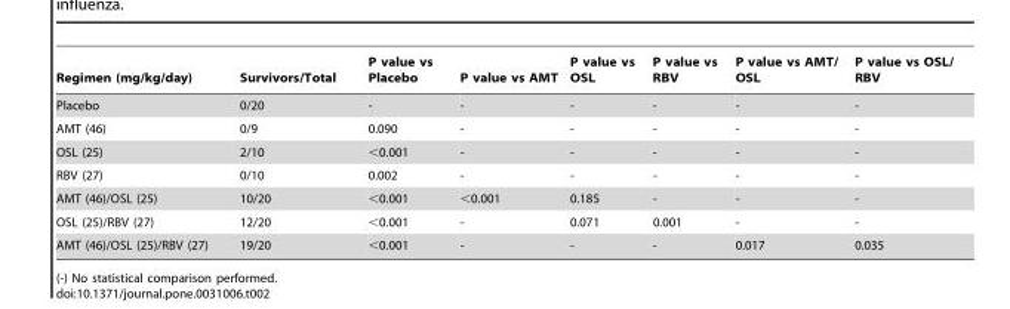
<table><thead><tr><td>Regimen (mg/kg/day)</td><td>Survivors/Total</td><td>P value vs Placebo</td><td>P value vs AMT</td><td>P value vs OSL</td><td>P value vs RBV</td><td>P value vs AMT/ OSL</td><td>P value vs OSL/ RBV</td></tr></thead><tbody><tr><td>Placebo</td><td>0/20</td><td>-</td><td>-</td><td>-</td><td>-</td><td>-</td><td>-</td></tr><tr><td>AMT (46)</td><td>0/9</td><td>0.090</td><td>-</td><td>-</td><td>-</td><td>-</td><td>-</td></tr><tr><td>OSL (25)</td><td>2/10</td><td>&lt;0.001</td><td>-</td><td>-</td><td>-</td><td>-</td><td>-</td></tr><tr><td>RBV (27)</td><td>0/10</td><td>0.002</td><td>-</td><td>-</td><td>-</td><td>-</td><td>-</td></tr><tr><td>AMT (46)/OSL (25)</td><td>10/20</td><td>&lt;0.001</td><td>&lt;0.001</td><td>0.185</td><td>-</td><td>-</td><td>-</td></tr><tr><td>OSL (25)/RBV (27)</td><td>12/20</td><td>&lt;0.001</td><td>-</td><td>0.071</td><td>0.001</td><td>-</td><td>-</td></tr><tr><td>AMT (46)/OSL (25)/RBV (27)</td><td>19/20</td><td>&lt;0.001</td><td>-</td><td>-</td><td>-</td><td>0.017</td><td>0.035</td></tr></tbody></table>